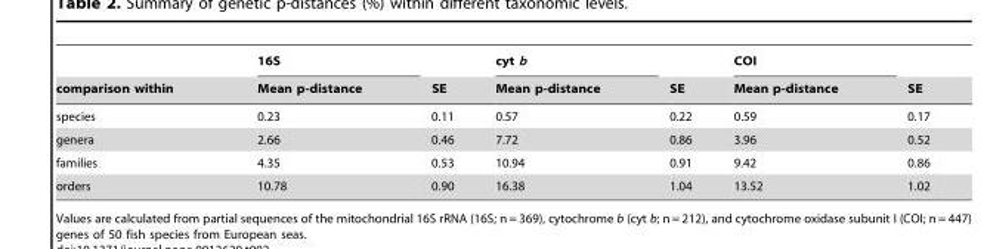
<table><thead><tr><td rowspan="2">comparison within</td><td rowspan="2">16S Mean p-distance</td><td rowspan="2">SE</td><td rowspan="2">cyt b Mean p-distance</td><td rowspan="2">SE</td><td rowspan="2">COI Mean p-distance</td><td rowspan="2">SE</td></tr><tr></tr></thead><tbody><tr><td>species</td><td>0.23</td><td>0.11</td><td>0.57</td><td>0.22</td><td>0.59</td><td>0.17</td></tr><tr><td>genera</td><td>2.66</td><td>0.46</td><td>7.72</td><td>0.86</td><td>3.96</td><td>0.52</td></tr><tr><td>families</td><td>4.35</td><td>0.53</td><td>10.94</td><td>0.91</td><td>9.42</td><td>0.86</td></tr><tr><td>orders</td><td>10.78</td><td>0.90</td><td>16.38</td><td>1.04</td><td>13.52</td><td>1.02</td></tr></tbody></table>